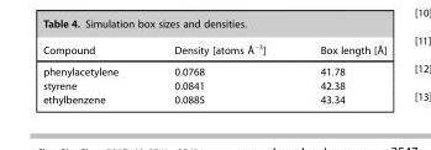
<table><thead><tr><td>Compound</td><td>Density [atoms Å<sup>−3</sup>]</td><td>Box length [Å]</td></tr></thead><tbody><tr><td>phenylacetylene</td><td>0.0768</td><td>41.78</td></tr><tr><td>styrene</td><td>0.0841</td><td>42.38</td></tr><tr><td>ethylbenzene</td><td>0.0885</td><td>43.34</td></tr></tbody></table>